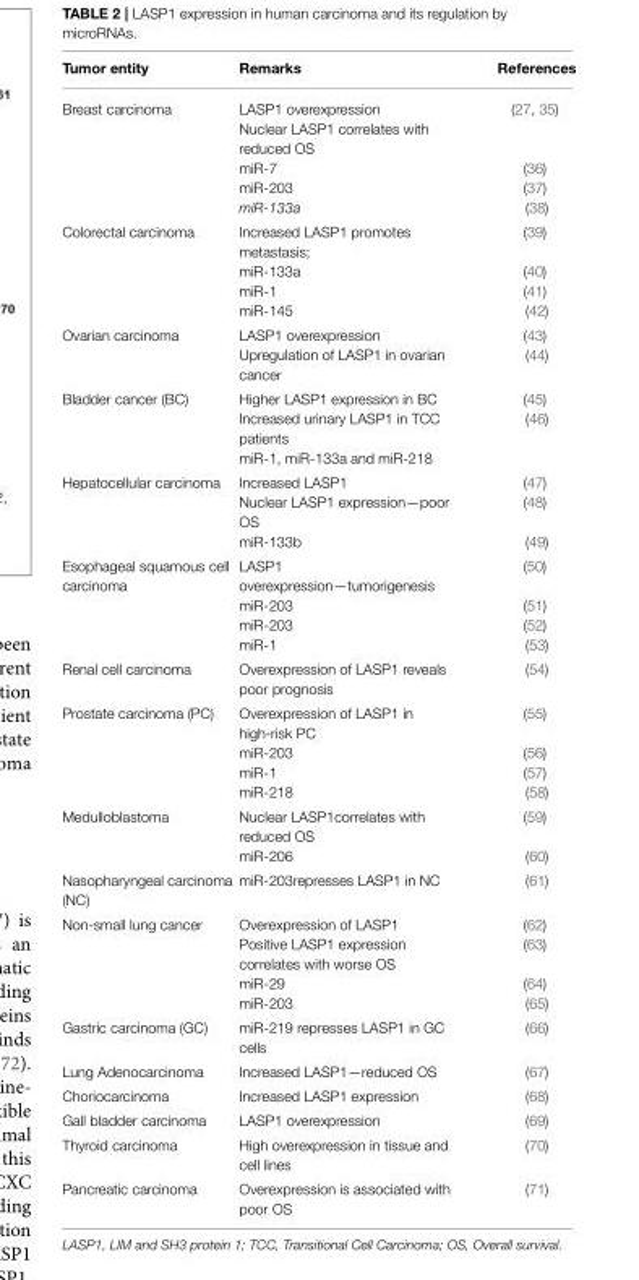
<table><thead><tr><td>Tumor entity</td><td>Remarks</td><td>References</td></tr></thead><tbody><tr><td>Breast carcinoma</td><td>LASP1 overexpression Nuclear LASP1 correlates with reduced OS miR-7 miR-203 miR-133a</td><td>(27, 35) (36) (37) (38)</td></tr><tr><td>Colorectal carcinoma</td><td>Increased LASP1 promotes metastasis; miR-133a miR-1 miR-145</td><td>(39) (40) (41) (42)</td></tr><tr><td>Ovarian carcinoma</td><td>LASP1 overexpression Upregulation of LASP1 in ovarian cancer</td><td>(43) (44)</td></tr><tr><td>Bladder cancer (BC)</td><td>Higher LASP1 expression in BC Increased urinary LASP1 in TCC patients miR-1, miR-133a and miR-218</td><td>(45) (46)</td></tr><tr><td>Hepatocellular carcinoma</td><td>Increased LASP1 Nuclear LASP1 expression—poor OS miR-133b</td><td>(47) (48) (49)</td></tr><tr><td>Esophageal squamous cell carcinoma</td><td>LASP1 overexpression—tumorigenesis miR-203 miR-203 miR-1</td><td>(50) (51) (52) (53)</td></tr><tr><td>Renal cell carcinoma</td><td>Overexpression of LASP1 reveals poor prognosis</td><td>(54)</td></tr><tr><td>Prostate carcinoma (PC)</td><td>Overexpression of LASP1 in high-risk PC miR-203 miR-1 miR-218</td><td>(55) (56) (57) (58)</td></tr><tr><td>Medulloblastoma</td><td>Nuclear LASP1correlates with reduced OS miR-206</td><td>(59) (60)</td></tr><tr><td>Nasopharyngeal carcinoma (NC)</td><td>miR-203represses LASP1 in NC</td><td>(61)</td></tr><tr><td>Non-small lung cancer</td><td>Overexpression of LASP1 Positive LASP1 expression correlates with worse OS miR-29 miR-203</td><td>(62) (63) (64) (65)</td></tr><tr><td>Gastric carcinoma (GC)</td><td>miR-219 represses LASP1 in GC cells</td><td>(66)</td></tr><tr><td>Lung Adenocarcinoma</td><td>Increased LASP1—reduced OS</td><td>(67)</td></tr><tr><td>Choriocarcinoma</td><td>Increased LASP1 expression</td><td>(68)</td></tr><tr><td>Gall bladder carcinoma</td><td>LASP1 overexpression</td><td>(69)</td></tr><tr><td>Thyroid carcinoma</td><td>High overexpression in tissue and cell lines</td><td>(70)</td></tr><tr><td>Pancreatic carcinoma</td><td>Overexpression is associated with poor OS</td><td>(71)</td></tr></tbody></table>